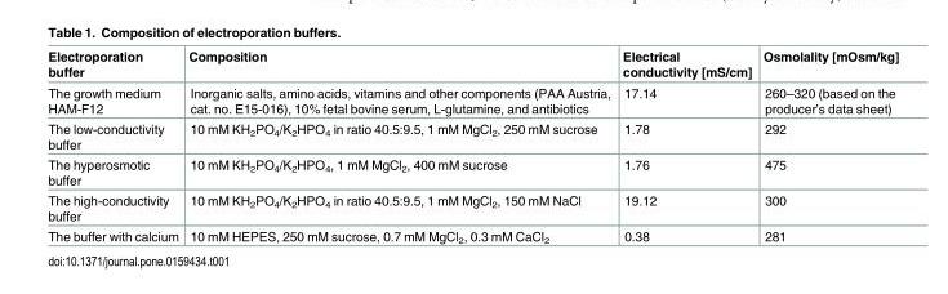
<table><thead><tr><td>Electroporation buffer</td><td>Composition</td><td>Electrical conductivity [mS/cm]</td><td>Osmolality [mOsm/kg]</td></tr></thead><tbody><tr><td>The growth medium HAM-F12</td><td>Inorganic salts, amino acids, vitamins and other components (PAA Austria, cat. no. E15-016), 10% fetal bovine serum, L-glutamine, and antibiotics</td><td>17.14</td><td>260–320 (based on the producer’s data sheet)</td></tr><tr><td>The low-conductivity buffer</td><td>10 mM KH<sub>2</sub>PO<sub>4</sub>/K<sub>2</sub>HPO<sub>4</sub> in ratio 40.5:9.5, 1 mM MgCl<sub>2</sub>, 250 mM sucrose</td><td>1.78</td><td>292</td></tr><tr><td>The hyperosmotic buffer</td><td>10 mM KH<sub>2</sub>PO<sub>4</sub>/K<sub>2</sub>HPO<sub>4</sub>, 1 mM MgCl<sub>2</sub>, 400 mM sucrose</td><td>1.76</td><td>475</td></tr><tr><td>The high-conductivity buffer</td><td>10 mM KH<sub>2</sub>PO<sub>4</sub>/K<sub>2</sub>HPO<sub>4</sub> in ratio 40.5:9.5, 1 mM MgCl<sub>2</sub>, 150 mM NaCl</td><td>19.12</td><td>300</td></tr><tr><td>The buffer with calcium</td><td>10 mM HEPES, 250 mM sucrose, 0.7 mM MgCl<sub>2</sub>, 0.3 mM CaCl<sub>2</sub></td><td>0.38</td><td>281</td></tr></tbody></table>